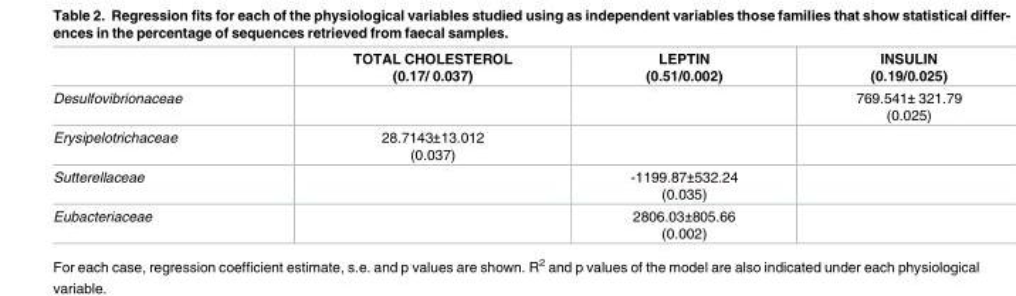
<table><thead><tr><td></td><td>TOTAL CHOLESTEROL (0.17/ 0.037)</td><td>LEPTIN (0.51/0.002)</td><td>INSULIN (0.19/0.025)</td></tr></thead><tbody><tr><td>Desulfovibrionaceae</td><td></td><td></td><td>769.541± 321.79 (0.025)</td></tr><tr><td>Erysipelotrichaceae</td><td>28.7143±13.012 (0.037)</td><td></td><td></td></tr><tr><td>Sutterellaceae</td><td></td><td>-1199.87±532.24 (0.035)</td><td></td></tr><tr><td>Eubacteriaceae</td><td></td><td>2806.03±805.66 (0.002)</td><td></td></tr></tbody></table>